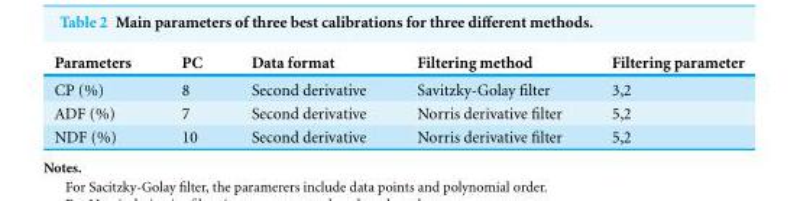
<table><thead><tr><td>Parameters</td><td>PC</td><td>Data format</td><td>Filtering method</td><td>Filtering parameter</td></tr></thead><tbody><tr><td>CP (%)</td><td>8</td><td>Second derivative</td><td>Savitzky-Golay filter</td><td>3,2</td></tr><tr><td>ADF (%)</td><td>7</td><td>Second derivative</td><td>Norris derivative filter</td><td>5,2</td></tr><tr><td>NDF (%)</td><td>10</td><td>Second derivative</td><td>Norris derivative filter</td><td>5,2</td></tr></tbody></table>